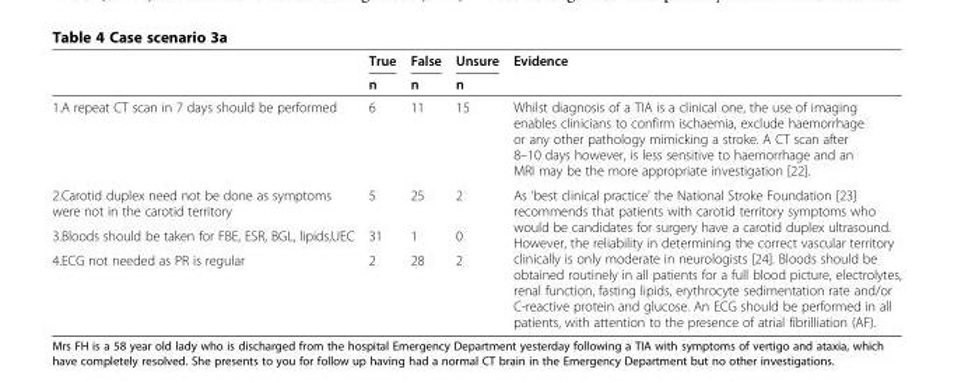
<table><thead><tr><td rowspan="2"></td><td rowspan="2">True n</td><td rowspan="2">False n</td><td rowspan="2">Unsure n</td><td rowspan="2">Evidence</td></tr><tr></tr></thead><tbody><tr><td>1.A repeat CT scan in 7 days should be performed</td><td>6</td><td>11</td><td>15</td><td>Whilst diagnosis of a TIA is a clinical one, the use of imaging enables clinicians to confirm ischaemia, exclude haemorrhage or any other pathology mimicking a stroke. A CT scan after 8–10 days however, is less sensitive to haemorrhage and an MRI may be the more appropriate investigation [22].</td></tr><tr><td>2.Carotid duplex need not be done as symptoms were not in the carotid territory</td><td>5</td><td>25</td><td>2</td><td rowspan="3">As ‘best clinical practice’ the National Stroke Foundation [23] recommends that patients with carotid territory symptoms who would be candidates for surgery have a carotid duplex ultrasound. However, the reliability in determining the correct vascular territory clinically is only moderate in neurologists [24]. Bloods should be obtained routinely in all patients for a full blood picture, electrolytes, renal function, fasting lipids, erythrocyte sedimentation rate and/or C-reactive protein and glucose. An ECG should be performed in all patients, with attention to the presence of atrial fibrilliation (AF).</td></tr><tr><td>3.Bloods should be taken for FBE, ESR, BGL, lipids,UEC</td><td>31</td><td>1</td><td>0</td></tr><tr><td>4.ECG not needed as PR is regular</td><td>2</td><td>28</td><td>2</td></tr></tbody></table>